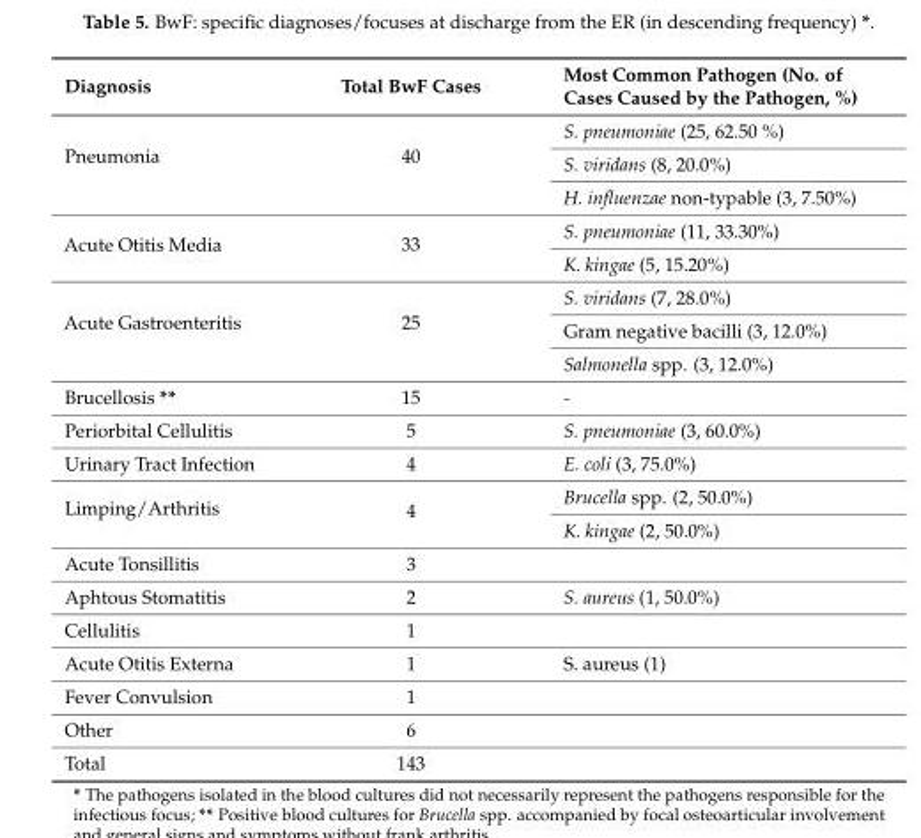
<table><thead><tr><td>Diagnosis</td><td>Total BwF Cases</td><td>Most Common Pathogen (No. of Cases Caused by the Pathogen, %)</td></tr></thead><tbody><tr><td rowspan="3">Pneumonia</td><td rowspan="3">40</td><td>S. pneumoniae (25, 62.50 %)</td></tr><tr><td>S. viridans (8, 20.0%)</td></tr><tr><td>H. influenzae non-typable (3, 7.50%)</td></tr><tr><td rowspan="2">Acute Otitis Media</td><td rowspan="2">33</td><td>S. pneumoniae (11, 33.30%)</td></tr><tr><td>K. kingae (5, 15.20%)</td></tr><tr><td rowspan="3">Acute Gastroenteritis</td><td rowspan="3">25</td><td>S. viridans (7, 28.0%)</td></tr><tr><td>Gram negative bacilli (3, 12.0%)</td></tr><tr><td>Salmonella spp. (3, 12.0%)</td></tr><tr><td>Brucellosis **</td><td>15</td><td>-</td></tr><tr><td>Periorbital Cellulitis</td><td>5</td><td>S. pneumoniae (3, 60.0%)</td></tr><tr><td>Urinary Tract Infection</td><td>4</td><td>E. coli (3, 75.0%)</td></tr><tr><td rowspan="2">Limping/Arthritis</td><td rowspan="2">4</td><td>Brucella spp. (2, 50.0%)</td></tr><tr><td>K. kingae (2, 50.0%)</td></tr><tr><td>Acute Tonsillitis</td><td>3</td><td></td></tr><tr><td>Aphtous Stomatitis</td><td>2</td><td>S. aureus (1, 50.0%)</td></tr><tr><td>Cellulitis</td><td>1</td><td></td></tr><tr><td>Acute Otitis Externa</td><td>1</td><td>S. aureus (1)</td></tr><tr><td>Fever Convulsion</td><td>1</td><td></td></tr><tr><td>Other</td><td>6</td><td></td></tr><tr><td>Total</td><td>143</td><td></td></tr></tbody></table>